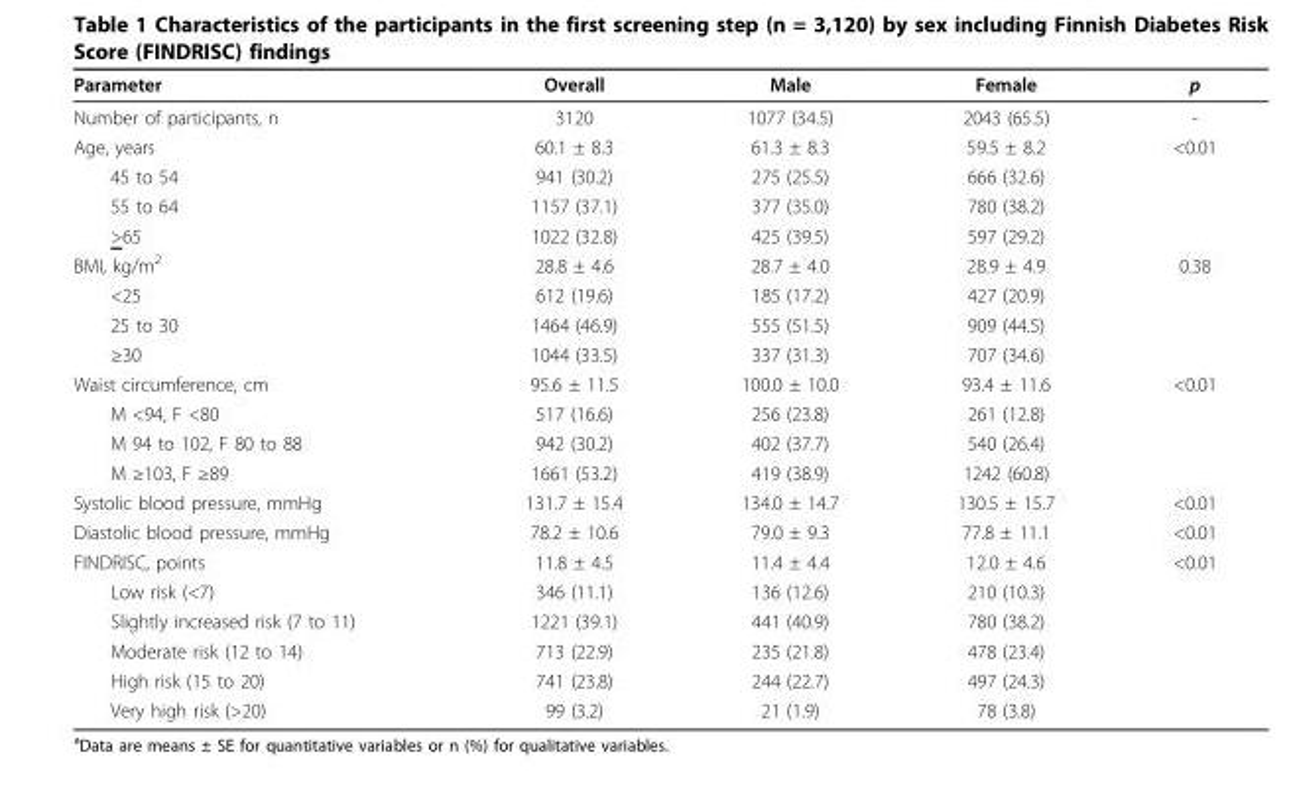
<table><thead><tr><td>Parameter</td><td>Overall</td><td>Male</td><td>Female</td><td>p</td></tr></thead><tbody><tr><td>Number of participants, n</td><td>3120</td><td>1077 (34.5)</td><td>2043 (65.5)</td><td>-</td></tr><tr><td>Age, years</td><td>60.1 ± 8.3</td><td>61.3 ± 8.3</td><td>59.5 ± 8.2</td><td>&lt;0.01</td></tr><tr><td>45 to 54</td><td>941 (30.2)</td><td>275 (25.5)</td><td>666 (32.6)</td><td></td></tr><tr><td>55 to 64</td><td>1157 (37.1)</td><td>377 (35.0)</td><td>780 (38.2)</td><td></td></tr><tr><td>&gt;65</td><td>1022 (32.8)</td><td>425 (39.5)</td><td>597 (29.2)</td><td></td></tr><tr><td>BMI, kg/m<sup>2</sup></td><td>28.8 ± 4.6</td><td>28.7 ± 4.0</td><td>28.9 ± 4.9</td><td>0.38</td></tr><tr><td>&lt;25</td><td>612 (19.6)</td><td>185 (17.2)</td><td>427 (20.9)</td><td></td></tr><tr><td>25 to 30</td><td>1464 (46.9)</td><td>555 (51.5)</td><td>909 (44.5)</td><td></td></tr><tr><td>≥30</td><td>1044 (33.5)</td><td>337 (31.3)</td><td>707 (34.6)</td><td></td></tr><tr><td>Waist circumference, cm</td><td>95.6 ± 11.5</td><td>100.0 ± 10.0</td><td>93.4 ± 11.6</td><td>&lt;0.01</td></tr><tr><td>M &lt;94, F &lt;80</td><td>517 (16.6)</td><td>256 (23.8)</td><td>261 (12.8)</td><td></td></tr><tr><td>M 94 to 102, F 80 to 88</td><td>942 (30.2)</td><td>402 (37.7)</td><td>540 (26.4)</td><td></td></tr><tr><td>M ≥103, F ≥89</td><td>1661 (53.2)</td><td>419 (38.9)</td><td>1242 (60.8)</td><td></td></tr><tr><td>Systolic blood pressure, mmHg</td><td>131.7 ± 15.4</td><td>134.0 ± 14.7</td><td>130.5 ± 15.7</td><td>&lt;0.01</td></tr><tr><td>Diastolic blood pressure, mmHg</td><td>78.2 ± 10.6</td><td>79.0 ± 9.3</td><td>77.8 ± 11.1</td><td>&lt;0.01</td></tr><tr><td>FINDRISC, points</td><td>11.8 ± 4.5</td><td>11.4 ± 4.4</td><td>12.0 ± 4.6</td><td>&lt;0.01</td></tr><tr><td>Low risk (&lt;7)</td><td>346 (11.1)</td><td>136 (12.6)</td><td>210 (10.3)</td><td></td></tr><tr><td>Slightly increased risk (7 to 11)</td><td>1221 (39.1)</td><td>441 (40.9)</td><td>780 (38.2)</td><td></td></tr><tr><td>Moderate risk (12 to 14)</td><td>713 (22.9)</td><td>235 (21.8)</td><td>478 (23.4)</td><td></td></tr><tr><td>High risk (15 to 20)</td><td>741 (23.8)</td><td>244 (22.7)</td><td>497 (24.3)</td><td></td></tr><tr><td>Very high risk (&gt;20)</td><td>99 (3.2)</td><td>21 (1.9)</td><td>78 (3.8)</td><td></td></tr></tbody></table>